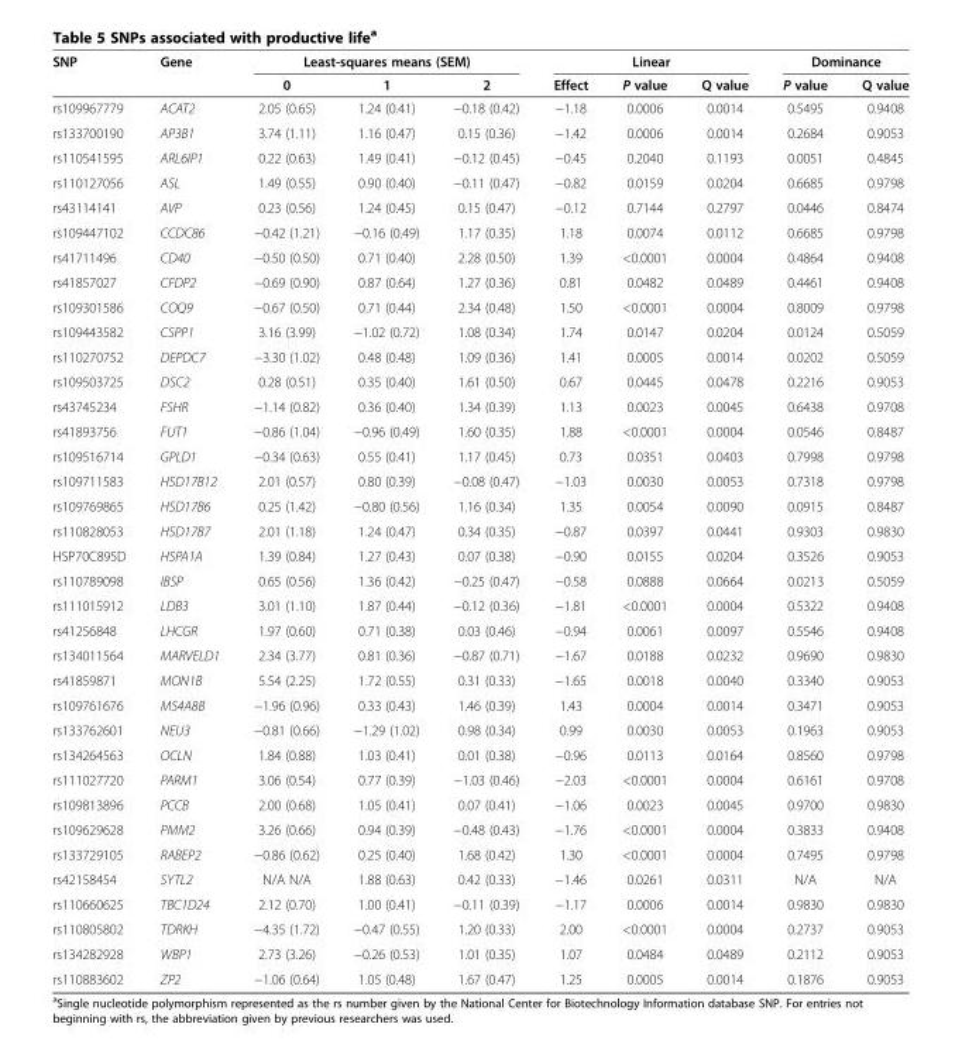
<table><thead><tr><td rowspan="2">SNP</td><td rowspan="2">Gene</td><td colspan="3">Least-squares means (SEM)</td><td colspan="3">Linear</td><td colspan="2">Dominance</td></tr><tr><td>0</td><td>1</td><td>2</td><td>Effect</td><td>P value</td><td>Q value</td><td>P value</td><td>Q value</td></tr></thead><tbody><tr><td>rs109967779</td><td>ACAT2</td><td>2.05 (0.65)</td><td>1.24 (0.41)</td><td>−0.18 (0.42)</td><td>−1.18</td><td>0.0006</td><td>0.0014</td><td>0.5495</td><td>0.9408</td></tr><tr><td>rs133700190</td><td>AP3B1</td><td>3.74 (1.11)</td><td>1.16 (0.47)</td><td>0.15 (0.36)</td><td>−1.42</td><td>0.0006</td><td>0.0014</td><td>0.2684</td><td>0.9053</td></tr><tr><td>rs110541595</td><td>ARL6IP1</td><td>0.22 (0.63)</td><td>1.49 (0.41)</td><td>−0.12 (0.45)</td><td>−0.45</td><td>0.2040</td><td>0.1193</td><td>0.0051</td><td>0.4845</td></tr><tr><td>rs110127056</td><td>ASL</td><td>1.49 (0.55)</td><td>0.90 (0.40)</td><td>−0.11 (0.47)</td><td>−0.82</td><td>0.0159</td><td>0.0204</td><td>0.6685</td><td>0.9798</td></tr><tr><td>rs43114141</td><td>AVP</td><td>0.23 (0.56)</td><td>1.24 (0.45)</td><td>0.15 (0.47)</td><td>−0.12</td><td>0.7144</td><td>0.2797</td><td>0.0446</td><td>0.8474</td></tr><tr><td>rs109447102</td><td>CCDC86</td><td>−0.42 (1.21)</td><td>−0.16 (0.49)</td><td>1.17 (0.35)</td><td>1.18</td><td>0.0074</td><td>0.0112</td><td>0.6685</td><td>0.9798</td></tr><tr><td>rs41711496</td><td>CD40</td><td>−0.50 (0.50)</td><td>0.71 (0.40)</td><td>2.28 (0.50)</td><td>1.39</td><td>&lt;0.0001</td><td>0.0004</td><td>0.4864</td><td>0.9408</td></tr><tr><td>rs41857027</td><td>CFDP2</td><td>−0.69 (0.90)</td><td>0.87 (0.64)</td><td>1.27 (0.36)</td><td>0.81</td><td>0.0482</td><td>0.0489</td><td>0.4461</td><td>0.9408</td></tr><tr><td>rs109301586</td><td>COQ9</td><td>−0.67 (0.50)</td><td>0.71 (0.44)</td><td>2.34 (0.48)</td><td>1.50</td><td>&lt;0.0001</td><td>0.0004</td><td>0.8009</td><td>0.9798</td></tr><tr><td>rs109443582</td><td>CSPP1</td><td>3.16 (3.99)</td><td>−1.02 (0.72)</td><td>1.08 (0.34)</td><td>1.74</td><td>0.0147</td><td>0.0204</td><td>0.0124</td><td>0.5059</td></tr><tr><td>rs110270752</td><td>DEPDC7</td><td>−3.30 (1.02)</td><td>0.48 (0.48)</td><td>1.09 (0.36)</td><td>1.41</td><td>0.0005</td><td>0.0014</td><td>0.0202</td><td>0.5059</td></tr><tr><td>rs109503725</td><td>DSC2</td><td>0.28 (0.51)</td><td>0.35 (0.40)</td><td>1.61 (0.50)</td><td>0.67</td><td>0.0445</td><td>0.0478</td><td>0.2216</td><td>0.9053</td></tr><tr><td>rs43745234</td><td>FSHR</td><td>−1.14 (0.82)</td><td>0.36 (0.40)</td><td>1.34 (0.39)</td><td>1.13</td><td>0.0023</td><td>0.0045</td><td>0.6438</td><td>0.9708</td></tr><tr><td>rs41893756</td><td>FUT1</td><td>−0.86 (1.04)</td><td>−0.96 (0.49)</td><td>1.60 (0.35)</td><td>1.88</td><td>&lt;0.0001</td><td>0.0004</td><td>0.0546</td><td>0.8487</td></tr><tr><td>rs109516714</td><td>GPLD1</td><td>−0.34 (0.63)</td><td>0.55 (0.41)</td><td>1.17 (0.45)</td><td>0.73</td><td>0.0351</td><td>0.0403</td><td>0.7998</td><td>0.9798</td></tr><tr><td>rs109711583</td><td>HSD17B12</td><td>2.01 (0.57)</td><td>0.80 (0.39)</td><td>−0.08 (0.47)</td><td>−1.03</td><td>0.0030</td><td>0.0053</td><td>0.7318</td><td>0.9798</td></tr><tr><td>rs109769865</td><td>HSD17B6</td><td>0.25 (1.42)</td><td>−0.80 (0.56)</td><td>1.16 (0.34)</td><td>1.35</td><td>0.0054</td><td>0.0090</td><td>0.0915</td><td>0.8487</td></tr><tr><td>rs110828053</td><td>HSD17B7</td><td>2.01 (1.18)</td><td>1.24 (0.47)</td><td>0.34 (0.35)</td><td>−0.87</td><td>0.0397</td><td>0.0441</td><td>0.9303</td><td>0.9830</td></tr><tr><td>HSP70C895D</td><td>HSPA1A</td><td>1.39 (0.84)</td><td>1.27 (0.43)</td><td>0.07 (0.38)</td><td>−0.90</td><td>0.0155</td><td>0.0204</td><td>0.3526</td><td>0.9053</td></tr><tr><td>rs110789098</td><td>IBSP</td><td>0.65 (0.56)</td><td>1.36 (0.42)</td><td>−0.25 (0.47)</td><td>−0.58</td><td>0.0888</td><td>0.0664</td><td>0.0213</td><td>0.5059</td></tr><tr><td>rs111015912</td><td>LDB3</td><td>3.01 (1.10)</td><td>1.87 (0.44)</td><td>−0.12 (0.36)</td><td>−1.81</td><td>&lt;0.0001</td><td>0.0004</td><td>0.5322</td><td>0.9408</td></tr><tr><td>rs41256848</td><td>LHCGR</td><td>1.97 (0.60)</td><td>0.71 (0.38)</td><td>0.03 (0.46)</td><td>−0.94</td><td>0.0061</td><td>0.0097</td><td>0.5546</td><td>0.9408</td></tr><tr><td>rs134011564</td><td>MARVELD1</td><td>2.34 (3.77)</td><td>0.81 (0.36)</td><td>−0.87 (0.71)</td><td>−1.67</td><td>0.0188</td><td>0.0232</td><td>0.9690</td><td>0.9830</td></tr><tr><td>rs41859871</td><td>MON1B</td><td>5.54 (2.25)</td><td>1.72 (0.55)</td><td>0.31 (0.33)</td><td>−1.65</td><td>0.0018</td><td>0.0040</td><td>0.3340</td><td>0.9053</td></tr><tr><td>rs109761676</td><td>MS4A8B</td><td>−1.96 (0.96)</td><td>0.33 (0.43)</td><td>1.46 (0.39)</td><td>1.43</td><td>0.0004</td><td>0.0014</td><td>0.3471</td><td>0.9053</td></tr><tr><td>rs133762601</td><td>NEU3</td><td>−0.81 (0.66)</td><td>−1.29 (1.02)</td><td>0.98 (0.34)</td><td>0.99</td><td>0.0030</td><td>0.0053</td><td>0.1963</td><td>0.9053</td></tr><tr><td>rs134264563</td><td>OCLN</td><td>1.84 (0.88)</td><td>1.03 (0.41)</td><td>0.01 (0.38)</td><td>−0.96</td><td>0.0113</td><td>0.0164</td><td>0.8560</td><td>0.9798</td></tr><tr><td>rs111027720</td><td>PARM1</td><td>3.06 (0.54)</td><td>0.77 (0.39)</td><td>−1.03 (0.46)</td><td>−2.03</td><td>&lt;0.0001</td><td>0.0004</td><td>0.6161</td><td>0.9708</td></tr><tr><td>rs109813896</td><td>PCCB</td><td>2.00 (0.68)</td><td>1.05 (0.41)</td><td>0.07 (0.41)</td><td>−1.06</td><td>0.0023</td><td>0.0045</td><td>0.9700</td><td>0.9830</td></tr><tr><td>rs109629628</td><td>PMM2</td><td>3.26 (0.66)</td><td>0.94 (0.39)</td><td>−0.48 (0.43)</td><td>−1.76</td><td>&lt;0.0001</td><td>0.0004</td><td>0.3833</td><td>0.9408</td></tr><tr><td>rs133729105</td><td>RABEP2</td><td>−0.86 (0.62)</td><td>0.25 (0.40)</td><td>1.68 (0.42)</td><td>1.30</td><td>&lt;0.0001</td><td>0.0004</td><td>0.7495</td><td>0.9798</td></tr><tr><td>rs42158454</td><td>SYTL2</td><td>N/A N/A</td><td>1.88 (0.63)</td><td>0.42 (0.33)</td><td>−1.46</td><td>0.0261</td><td>0.0311</td><td>N/A</td><td>N/A</td></tr><tr><td>rs110660625</td><td>TBC1D24</td><td>2.12 (0.70)</td><td>1.00 (0.41)</td><td>−0.11 (0.39)</td><td>−1.17</td><td>0.0006</td><td>0.0014</td><td>0.9830</td><td>0.9830</td></tr><tr><td>rs110805802</td><td>TDRKH</td><td>−4.35 (1.72)</td><td>−0.47 (0.55)</td><td>1.20 (0.33)</td><td>2.00</td><td>&lt;0.0001</td><td>0.0004</td><td>0.2737</td><td>0.9053</td></tr><tr><td>rs134282928</td><td>WBP1</td><td>2.73 (3.26)</td><td>−0.26 (0.53)</td><td>1.01 (0.35)</td><td>1.07</td><td>0.0484</td><td>0.0489</td><td>0.2112</td><td>0.9053</td></tr><tr><td>rs110883602</td><td>ZP2</td><td>−1.06 (0.64)</td><td>1.05 (0.48)</td><td>1.67 (0.47)</td><td>1.25</td><td>0.0005</td><td>0.0014</td><td>0.1876</td><td>0.9053</td></tr></tbody></table>